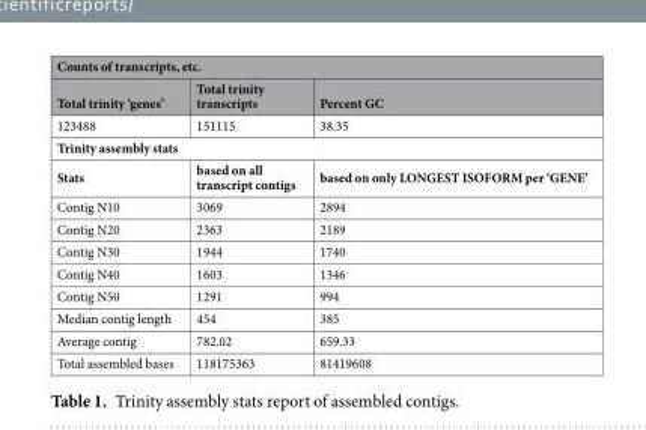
<table><thead><tr><td colspan="3">Counts of transcripts, etc.</td></tr><tr><td>Total trinity ‘genes’</td><td>Total trinity transcripts</td><td>Percent GC</td></tr></thead><tbody><tr><td>123488</td><td>151115</td><td>38.35</td></tr><tr><td colspan="3">Trinity assembly stats</td></tr><tr><td>Stats</td><td>based on all transcript contigs</td><td>based on only LONGEST ISOFORM per ‘GENE’</td></tr><tr><td>Contig N10</td><td>3069</td><td>2894</td></tr><tr><td>Contig N20</td><td>2363</td><td>2189</td></tr><tr><td>Contig N30</td><td>1944</td><td>1740</td></tr><tr><td>Contig N40</td><td>1603</td><td>1346</td></tr><tr><td>Contig N50</td><td>1291</td><td>994</td></tr><tr><td>Median contig length</td><td>454</td><td>385</td></tr><tr><td>Average contig</td><td>782.02</td><td>659.33</td></tr><tr><td>Total assembled bases</td><td>118175363</td><td>81419608</td></tr></tbody></table>